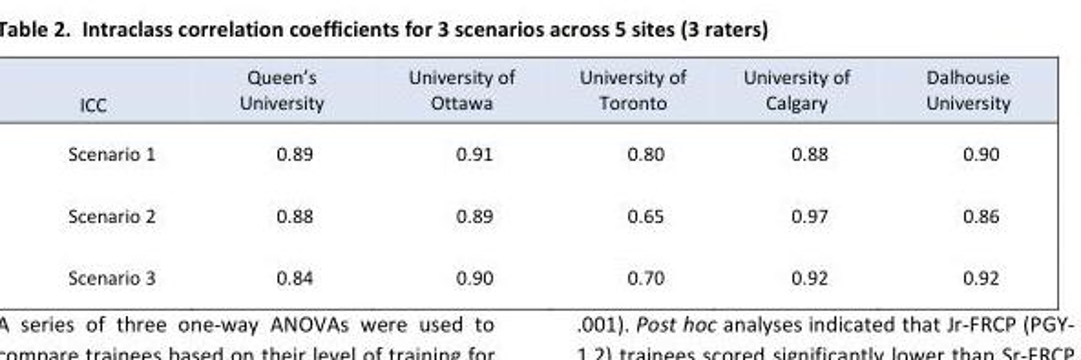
<table><thead><tr><td>ICC</td><td>Queen’s University</td><td>University of Ottawa</td><td>University of Toronto</td><td>University of Calgary</td><td>Dalhousie University</td></tr></thead><tbody><tr><td>Scenario 1</td><td>0.89</td><td>0.91</td><td>0.80</td><td>0.88</td><td>0.90</td></tr><tr><td>Scenario 2</td><td>0.88</td><td>0.89</td><td>0.65</td><td>0.97</td><td>0.86</td></tr><tr><td>Scenario 3</td><td>0.84</td><td>0.90</td><td>0.70</td><td>0.92</td><td>0.92</td></tr></tbody></table>